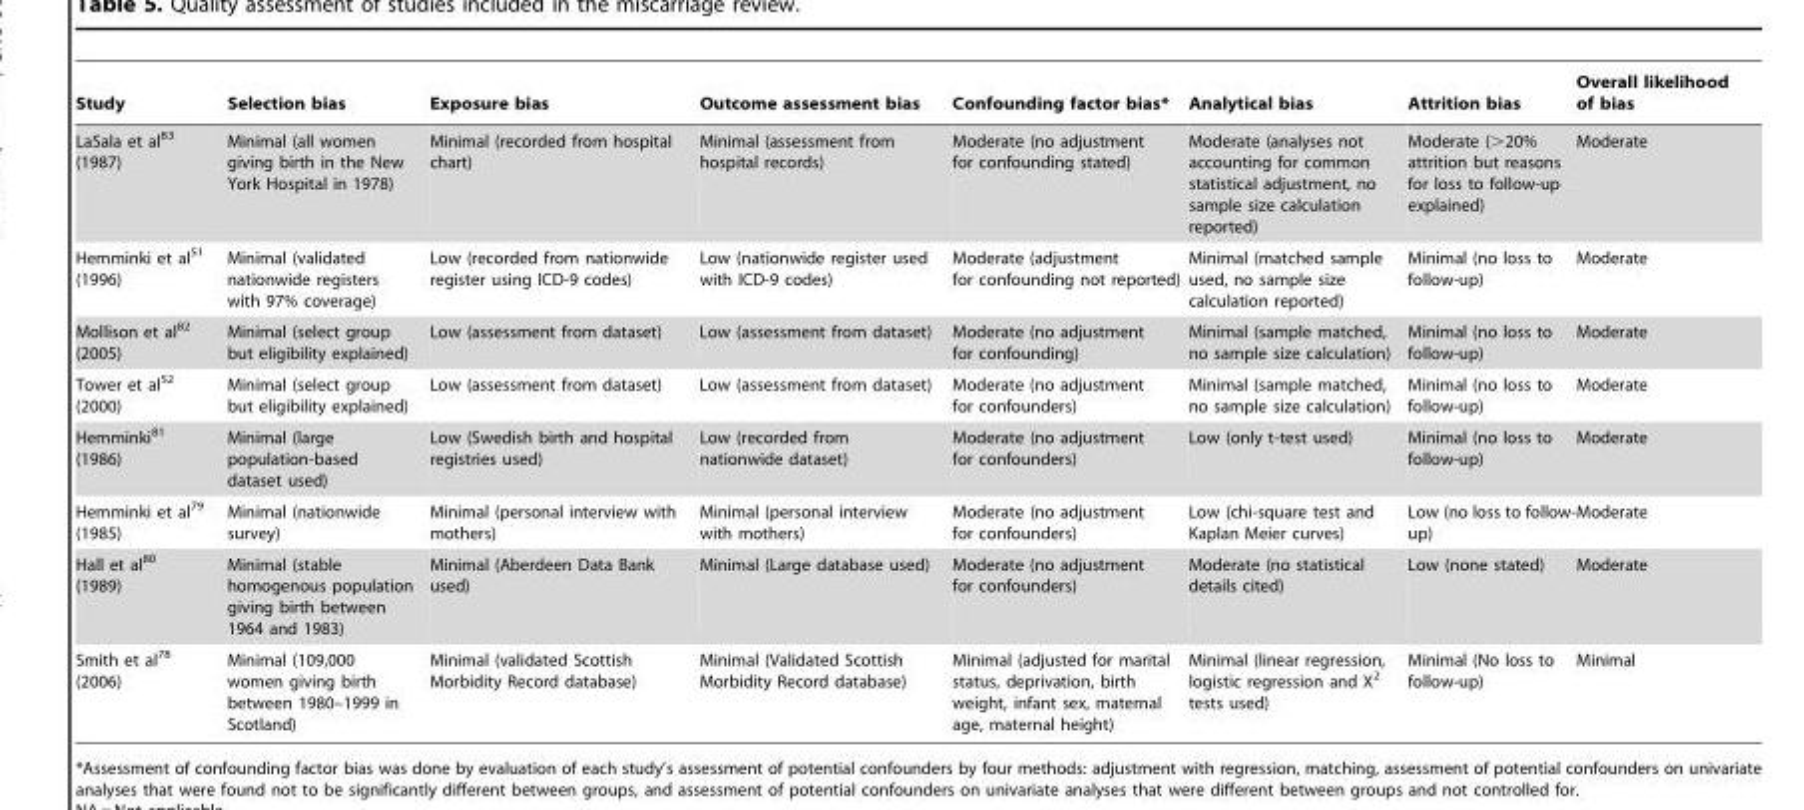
<table><thead><tr><td>Study</td><td>Selection bias</td><td>Exposure bias</td><td>Outcome assessment bias</td><td>Confounding factor bias*</td><td>Analytical bias</td><td>Attrition bias</td><td>Overall likelihood of bias</td></tr></thead><tbody><tr><td>LaSala et al<sup>83</sup> (1987)</td><td>Minimal (all women giving birth in the New York Hospital in 1978)</td><td>Minimal (recorded from hospital chart)</td><td>Minimal (assessment from hospital records)</td><td>Moderate (no adjustment for confounding stated)</td><td>Moderate (analyses not accounting for common statistical adjustment, no sample size calculation reported)</td><td>Moderate (&gt;20% attrition but reasons for loss to follow-up explained)</td><td>Moderate</td></tr><tr><td>Hemminki et al<sup>51</sup> (1996)</td><td>Minimal (validated nationwide registers with 97% coverage)</td><td>Low (recorded from nationwide register using ICD-9 codes)</td><td>Low (nationwide register used with ICD-9 codes)</td><td>Moderate (adjustment for confounding not reported)</td><td>Minimal (matched sample used, no sample size calculation reported)</td><td>Minimal (no loss to follow-up)</td><td>Moderate</td></tr><tr><td>Mollison et al<sup>82</sup> (2005)</td><td>Minimal (select group but eligibility explained)</td><td>Low (assessment from dataset)</td><td>Low (assessment from dataset)</td><td>Moderate (no adjustment for confounding)</td><td>Minimal (sample matched, no sample size calculation)</td><td>Minimal (no loss to follow-up)</td><td>Moderate</td></tr><tr><td>Tower et al<sup>52</sup> (2000)</td><td>Minimal (select group but eligibility explained)</td><td>Low (assessment from dataset)</td><td>Low (assessment from dataset)</td><td>Moderate (no adjustment for confounders)</td><td>Minimal (sample matched, no sample size calculation)</td><td>Minimal (no loss to follow-up)</td><td>Moderate</td></tr><tr><td>Hemminki<sup>81</sup> (1986)</td><td>Minimal (large population-based dataset used)</td><td>Low (Swedish birth and hospital registries used)</td><td>Low (recorded from nationwide dataset)</td><td>Moderate (no adjustment for confounders)</td><td>Low (only t-test used)</td><td>Minimal (no loss to follow-up)</td><td>Moderate</td></tr><tr><td>Hemminki et al<sup>79</sup> (1985)</td><td>Minimal (nationwide survey)</td><td>Minimal (personal interview with mothers)</td><td>Minimal (personal interview with mothers)</td><td>Moderate (no adjustment for confounders)</td><td>Low (chi-square test and Kaplan Meier curves)</td><td>Low (no loss to follow- up)</td><td>Moderate</td></tr><tr><td>Hall et al<sup>80</sup> (1989)</td><td>Minimal (stable homogenous population giving birth between 1964 and 1983)</td><td>Minimal (Aberdeen Data Bank used)</td><td>Minimal (Large database used)</td><td>Moderate (no adjustment for confounders)</td><td>Moderate (no statistical details cited)</td><td>Low (none stated)</td><td>Moderate</td></tr><tr><td>Smith et al<sup>78</sup> (2006)</td><td>Minimal (109,000 women giving birth between 1980–1999 in Scotland)</td><td>Minimal (validated Scottish Morbidity Record database)</td><td>Minimal (Validated Scottish Morbidity Record database)</td><td>Minimal (adjusted for marital status, deprivation, birth weight, infant sex, maternal age, maternal height)</td><td>Minimal (linear regression, logistic regression and X<sup>2</sup> tests used)</td><td>Minimal (No loss to follow-up)</td><td>Minimal</td></tr></tbody></table>